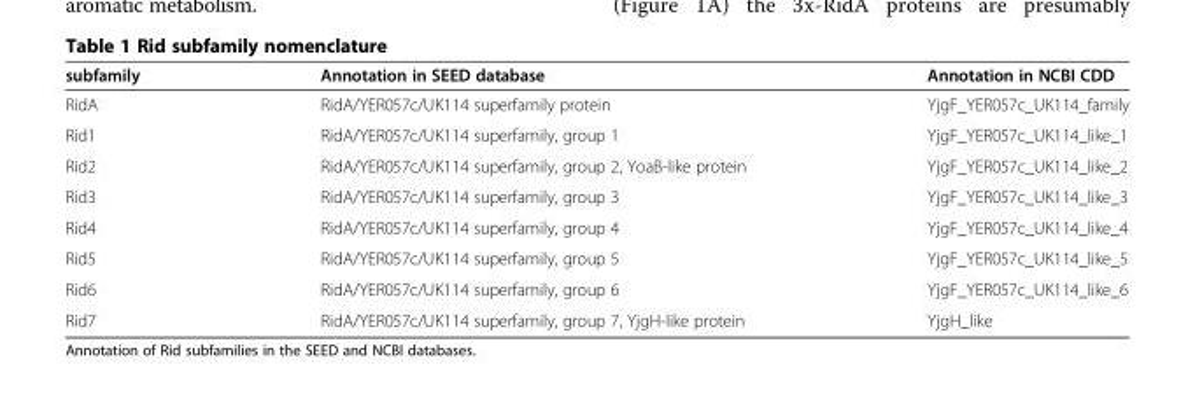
<table><thead><tr><td>subfamily</td><td>Annotation in SEED database</td><td>Annotation in NCBI CDD</td></tr></thead><tbody><tr><td>RidA</td><td>RidA/YER057c/UK114 superfamily protein</td><td>YjgF_YER057c_UK114_family</td></tr><tr><td>Rid1</td><td>RidA/YER057c/UK114 superfamily, group 1</td><td>YjgF_YER057c_UK114_like_1</td></tr><tr><td>Rid2</td><td>RidA/YER057c/UK114 superfamily, group 2, YoaB-like protein</td><td>YjgF_YER057c_UK114_like_2</td></tr><tr><td>Rid3</td><td>RidA/YER057c/UK114 superfamily, group 3</td><td>YjgF_YER057c_UK114_like_3</td></tr><tr><td>Rid4</td><td>RidA/YER057c/UK114 superfamily, group 4</td><td>YjgF_YER057c_UK114_like_4</td></tr><tr><td>Rid5</td><td>RidA/YER057c/UK114 superfamily, group 5</td><td>YjgF_YER057c_UK114_like_5</td></tr><tr><td>Rid6</td><td>RidA/YER057c/UK114 superfamily, group 6</td><td>YjgF_YER057c_UK114_like_6</td></tr><tr><td>Rid7</td><td>RidA/YER057c/UK114 superfamily, group 7, YjgH-like protein</td><td>YjgH_like</td></tr></tbody></table>